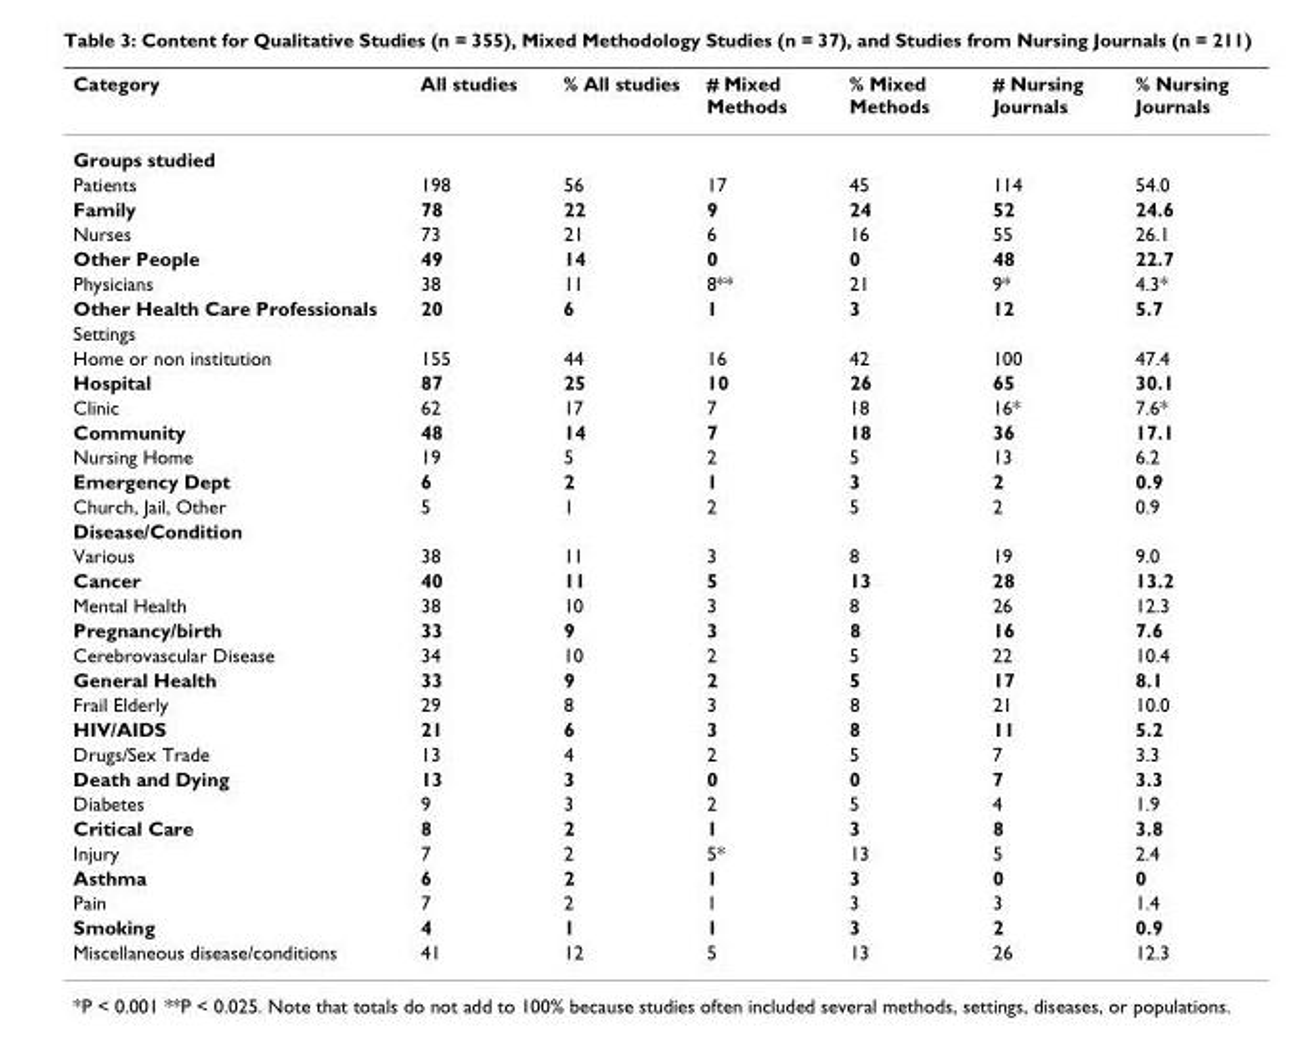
<table><thead><tr><td>Category</td><td>All studies</td><td>% All studies</td><td># Mixed Methods</td><td>% Mixed Methods</td><td># Nursing Journals</td><td>% Nursing Journals</td></tr></thead><tbody><tr><td colspan="7">Groups studied</td></tr><tr><td>Patients</td><td>198</td><td>56</td><td>17</td><td>45</td><td>114</td><td>54.0</td></tr><tr><td>Family</td><td>78</td><td>22</td><td>9</td><td>24</td><td>52</td><td>24.6</td></tr><tr><td>Nurses</td><td>73</td><td>21</td><td>6</td><td>16</td><td>55</td><td>26.1</td></tr><tr><td>Other People</td><td>49</td><td>14</td><td>0</td><td>0</td><td>48</td><td>22.7</td></tr><tr><td>Physicians</td><td>38</td><td>11</td><td>8**</td><td>21</td><td>9*</td><td>4.3*</td></tr><tr><td>Other Health Care Professionals</td><td>20</td><td>6</td><td>1</td><td>3</td><td>12</td><td>5.7</td></tr><tr><td colspan="7">Settings</td></tr><tr><td>Home or non institution</td><td>155</td><td>44</td><td>16</td><td>42</td><td>100</td><td>47.4</td></tr><tr><td>Hospital</td><td>87</td><td>25</td><td>10</td><td>26</td><td>65</td><td>30.1</td></tr><tr><td>Clinic</td><td>62</td><td>17</td><td>7</td><td>18</td><td>16*</td><td>7.6*</td></tr><tr><td>Community</td><td>48</td><td>14</td><td>7</td><td>18</td><td>36</td><td>17.1</td></tr><tr><td>Nursing Home</td><td>19</td><td>5</td><td>2</td><td>5</td><td>13</td><td>6.2</td></tr><tr><td>Emergency Dept</td><td>6</td><td>2</td><td>1</td><td>3</td><td>2</td><td>0.9</td></tr><tr><td>Church, Jail, Other</td><td>5</td><td>1</td><td>2</td><td>5</td><td>2</td><td>0.9</td></tr><tr><td colspan="7">Disease/Condition</td></tr><tr><td>Various</td><td>38</td><td>11</td><td>3</td><td>8</td><td>19</td><td>9.0</td></tr><tr><td>Cancer</td><td>40</td><td>11</td><td>5</td><td>13</td><td>28</td><td>13.2</td></tr><tr><td>Mental Health</td><td>38</td><td>10</td><td>3</td><td>8</td><td>26</td><td>12.3</td></tr><tr><td>Pregnancy/birth</td><td>33</td><td>9</td><td>3</td><td>8</td><td>16</td><td>7.6</td></tr><tr><td>Cerebrovascular Disease</td><td>34</td><td>10</td><td>2</td><td>5</td><td>22</td><td>10.4</td></tr><tr><td>General Health</td><td>33</td><td>9</td><td>2</td><td>5</td><td>17</td><td>8.1</td></tr><tr><td>Frail Elderly</td><td>29</td><td>8</td><td>3</td><td>8</td><td>21</td><td>10.0</td></tr><tr><td>HIV/AIDS</td><td>21</td><td>6</td><td>3</td><td>8</td><td>11</td><td>5.2</td></tr><tr><td>Drugs/Sex Trade</td><td>13</td><td>4</td><td>2</td><td>5</td><td>7</td><td>3.3</td></tr><tr><td>Death and Dying</td><td>13</td><td>3</td><td>0</td><td>0</td><td>7</td><td>3.3</td></tr><tr><td>Diabetes</td><td>9</td><td>3</td><td>2</td><td>5</td><td>4</td><td>1.9</td></tr><tr><td>Critical Care</td><td>8</td><td>2</td><td>1</td><td>3</td><td>8</td><td>3.8</td></tr><tr><td>Injury</td><td>7</td><td>2</td><td>5*</td><td>13</td><td>5</td><td>2.4</td></tr><tr><td>Asthma</td><td>6</td><td>2</td><td>1</td><td>3</td><td>0</td><td>0</td></tr><tr><td>Pain</td><td>7</td><td>2</td><td>1</td><td>3</td><td>3</td><td>1.4</td></tr><tr><td>Smoking</td><td>4</td><td>1</td><td>1</td><td>3</td><td>2</td><td>0.9</td></tr><tr><td>Miscellaneous disease/conditions</td><td>41</td><td>12</td><td>5</td><td>13</td><td>26</td><td>12.3</td></tr></tbody></table>